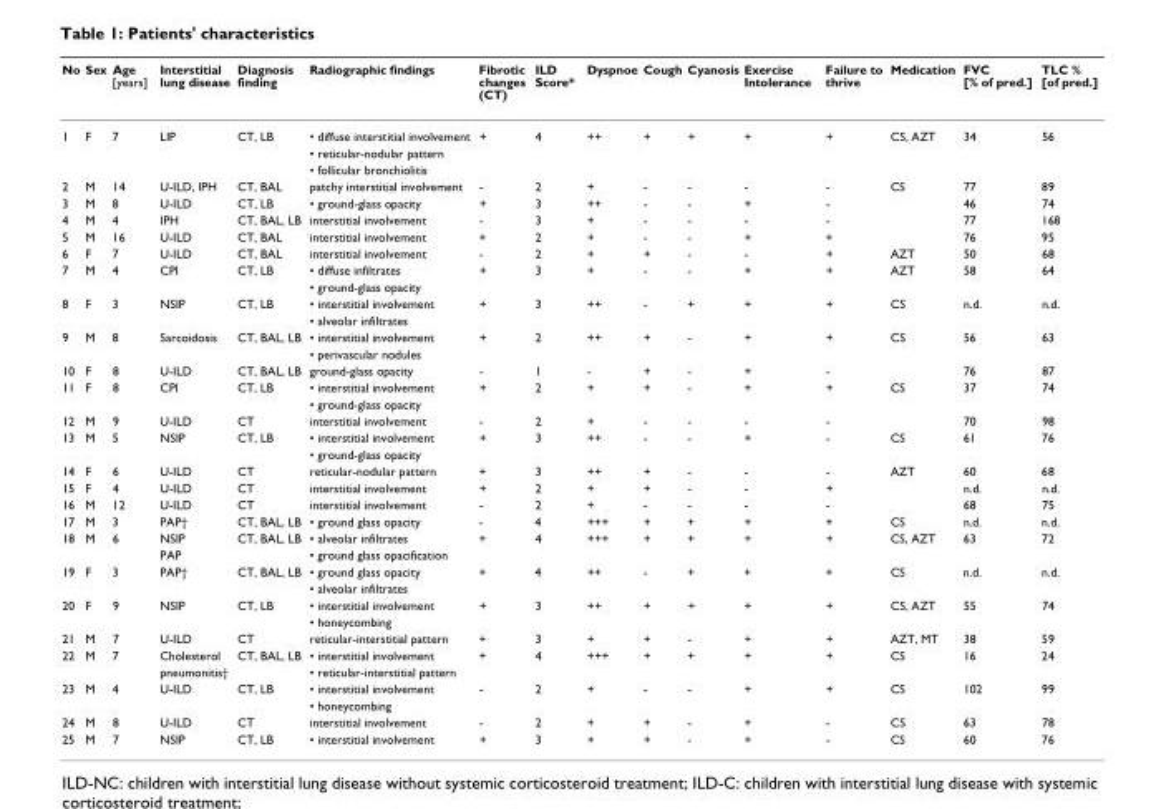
<table><thead><tr><td>No</td><td>Sex</td><td>Age [years]</td><td>Interstitial lung disease</td><td>Diagnosis finding</td><td>Radiographic findings</td><td>Fibrotic changes (CT)</td><td>ILD Score*</td><td>Dyspnoe</td><td>Cough</td><td>Cyanosis</td><td>Exercise Intolerance</td><td>Failure to thrive</td><td>Medication</td><td>FVC [% of pred.]</td><td>TLC % [of pred.]</td></tr></thead><tbody><tr><td rowspan="3">1</td><td>F</td><td>7</td><td>LIP</td><td>CT, LB</td><td>• diffuse interstitial involvement</td><td>+</td><td>4</td><td>++</td><td>+</td><td>+</td><td>+</td><td>+</td><td>CS, AZT</td><td>34</td><td>56</td></tr><tr><td></td><td></td><td></td><td></td><td>• reticular-nodular pattern</td><td></td><td></td><td></td><td></td><td></td><td></td><td></td><td></td><td></td><td></td></tr><tr><td></td><td></td><td></td><td></td><td>• follicular bronchiolitis</td><td></td><td></td><td></td><td></td><td></td><td></td><td></td><td></td><td></td><td></td></tr><tr><td>2</td><td>M</td><td>14</td><td>U-ILD, IPH</td><td>CT, BAL</td><td>patchy interstitial involvement</td><td>-</td><td>2</td><td>+</td><td>-</td><td>-</td><td>-</td><td>-</td><td>CS</td><td>77</td><td>89</td></tr><tr><td>3</td><td>M</td><td>8</td><td>U-ILD</td><td>CT, LB</td><td>• ground-glass opacity</td><td>+</td><td>3</td><td>++</td><td>-</td><td>-</td><td>+</td><td>-</td><td></td><td>46</td><td>74</td></tr><tr><td>4</td><td>M</td><td>4</td><td>IPH</td><td>CT, BAL, LB</td><td>interstitial involvement</td><td>-</td><td>3</td><td>+</td><td>-</td><td>-</td><td>-</td><td>-</td><td></td><td>77</td><td>168</td></tr><tr><td>5</td><td>M</td><td>16</td><td>U-ILD</td><td>CT, BAL</td><td>interstitial involvement</td><td>+</td><td>2</td><td>+</td><td>-</td><td>-</td><td>+</td><td>+</td><td></td><td>76</td><td>95</td></tr><tr><td>6</td><td>F</td><td>7</td><td>U-ILD</td><td>CT, BAL</td><td>interstitial involvement</td><td>-</td><td>2</td><td>+</td><td>+</td><td>-</td><td>-</td><td>+</td><td>AZT</td><td>50</td><td>68</td></tr><tr><td rowspan="2">7</td><td>M</td><td>4</td><td>CPI</td><td>CT, LB</td><td>• diffuse infiltrates</td><td>+</td><td>3</td><td>+</td><td>-</td><td>-</td><td>+</td><td>+</td><td>AZT</td><td>58</td><td>64</td></tr><tr><td></td><td></td><td></td><td></td><td>• ground-glass opacity</td><td></td><td></td><td></td><td></td><td></td><td></td><td></td><td></td><td></td><td></td></tr><tr><td rowspan="2">8</td><td>F</td><td>3</td><td>NSIP</td><td>CT, LB</td><td>• interstitial involvement</td><td>+</td><td>3</td><td>++</td><td>-</td><td>+</td><td>+</td><td>+</td><td>CS</td><td>n.d.</td><td>n.d.</td></tr><tr><td></td><td></td><td></td><td></td><td>• alveolar infiltrates</td><td></td><td></td><td></td><td></td><td></td><td></td><td></td><td></td><td></td><td></td></tr><tr><td rowspan="2">9</td><td>M</td><td>8</td><td>Sarcoidosis</td><td>CT, BAL, LB</td><td>• interstitial involvement</td><td>+</td><td>2</td><td>++</td><td>+</td><td>-</td><td>+</td><td>+</td><td>CS</td><td>56</td><td>63</td></tr><tr><td></td><td></td><td></td><td></td><td>• perivascular nodules</td><td></td><td></td><td></td><td></td><td></td><td></td><td></td><td></td><td></td><td></td></tr><tr><td>10</td><td>F</td><td>8</td><td>U-ILD</td><td>CT, BAL, LB</td><td>ground-glass opacity</td><td>-</td><td>1</td><td>-</td><td>+</td><td>-</td><td>+</td><td>-</td><td></td><td>76</td><td>87</td></tr><tr><td rowspan="2">11</td><td>F</td><td>8</td><td>CPI</td><td>CT, LB</td><td>• interstitial involvement</td><td>+</td><td>2</td><td>+</td><td>+</td><td>-</td><td>+</td><td>+</td><td>CS</td><td>37</td><td>74</td></tr><tr><td></td><td></td><td></td><td></td><td>• ground-glass opacity</td><td></td><td></td><td></td><td></td><td></td><td></td><td></td><td></td><td></td><td></td></tr><tr><td>12</td><td>M</td><td>9</td><td>U-ILD</td><td>CT</td><td>interstitial involvement</td><td>-</td><td>2</td><td>+</td><td>-</td><td>-</td><td>-</td><td>-</td><td></td><td>70</td><td>98</td></tr><tr><td rowspan="2">13</td><td>M</td><td>5</td><td>NSIP</td><td>CT, LB</td><td>• interstitial involvement</td><td>+</td><td>3</td><td>++</td><td>-</td><td>-</td><td>+</td><td>-</td><td>CS</td><td>61</td><td>76</td></tr><tr><td></td><td></td><td></td><td></td><td>• ground-glass opacity</td><td></td><td></td><td></td><td></td><td></td><td></td><td></td><td></td><td></td><td></td></tr><tr><td>14</td><td>F</td><td>6</td><td>U-ILD</td><td>CT</td><td>reticular-nodular pattern</td><td>+</td><td>3</td><td>++</td><td>+</td><td>-</td><td>-</td><td>-</td><td>AZT</td><td>60</td><td>68</td></tr><tr><td>15</td><td>F</td><td>4</td><td>U-ILD</td><td>CT</td><td>interstitial involvement</td><td>+</td><td>2</td><td>+</td><td>+</td><td>-</td><td>-</td><td>+</td><td></td><td>n.d.</td><td>n.d.</td></tr><tr><td>16</td><td>M</td><td>12</td><td>U-ILD</td><td>CT</td><td>interstitial involvement</td><td>-</td><td>2</td><td>+</td><td>-</td><td>-</td><td>-</td><td>-</td><td></td><td>68</td><td>75</td></tr><tr><td>17</td><td>M</td><td>3</td><td>PAP†</td><td>CT, BAL, LB</td><td>• ground glass opacity</td><td>-</td><td>4</td><td>+++</td><td>+</td><td>+</td><td>+</td><td>+</td><td>CS</td><td>n.d.</td><td>n.d.</td></tr><tr><td rowspan="2">18</td><td>M</td><td>6</td><td>NSIP</td><td>CT, BAL, LB</td><td>• alveolar infiltrates</td><td>+</td><td>4</td><td>+++</td><td>+</td><td>+</td><td>+</td><td>+</td><td>CS, AZT</td><td>63</td><td>72</td></tr><tr><td></td><td></td><td>PAP</td><td></td><td>• ground glass opacification</td><td></td><td></td><td></td><td></td><td></td><td></td><td></td><td></td><td></td><td></td></tr><tr><td rowspan="2">19</td><td>F</td><td>3</td><td>PAP†</td><td>CT, BAL, LB</td><td>• ground glass opacity</td><td>+</td><td>4</td><td>++</td><td>-</td><td>+</td><td>+</td><td>+</td><td>CS</td><td>n.d.</td><td>n.d.</td></tr><tr><td></td><td></td><td></td><td></td><td>• alveolar infiltrates</td><td></td><td></td><td></td><td></td><td></td><td></td><td></td><td></td><td></td><td></td></tr><tr><td rowspan="2">20</td><td>F</td><td>9</td><td>NSIP</td><td>CT, LB</td><td>• interstitial involvement</td><td>+</td><td>3</td><td>++</td><td>+</td><td>+</td><td>+</td><td>+</td><td>CS, AZT</td><td>55</td><td>74</td></tr><tr><td></td><td></td><td></td><td></td><td>• honeycombing</td><td></td><td></td><td></td><td></td><td></td><td></td><td></td><td></td><td></td><td></td></tr><tr><td>21</td><td>M</td><td>7</td><td>U-ILD</td><td>CT</td><td>reticular-interstitial pattern</td><td>+</td><td>3</td><td>+</td><td>+</td><td>-</td><td>+</td><td>+</td><td>AZT, MT</td><td>38</td><td>59</td></tr><tr><td rowspan="2">22</td><td>M</td><td>7</td><td>Cholesterol</td><td>CT, BAL, LB</td><td>• interstitial involvement</td><td>+</td><td>4</td><td>+++</td><td>+</td><td>+</td><td>+</td><td>+</td><td>CS</td><td>16</td><td>24</td></tr><tr><td></td><td></td><td>pneumonitis†</td><td></td><td>• reticular-interstitial pattern</td><td></td><td></td><td></td><td></td><td></td><td></td><td></td><td></td><td></td><td></td></tr><tr><td rowspan="2">23</td><td>M</td><td>4</td><td>U-ILD</td><td>CT, LB</td><td>• interstitial involvement</td><td>-</td><td>2</td><td>+</td><td>-</td><td>-</td><td>+</td><td>+</td><td>CS</td><td>102</td><td>99</td></tr><tr><td></td><td></td><td></td><td></td><td>• honeycombing</td><td></td><td></td><td></td><td></td><td></td><td></td><td></td><td></td><td></td><td></td></tr><tr><td>24</td><td>M</td><td>8</td><td>U-ILD</td><td>CT</td><td>interstitial involvement</td><td>-</td><td>2</td><td>+</td><td>+</td><td>-</td><td>+</td><td>-</td><td>CS</td><td>63</td><td>78</td></tr><tr><td>25</td><td>M</td><td>7</td><td>NSIP</td><td>CT, LB</td><td>• interstitial involvement</td><td>+</td><td>3</td><td>+</td><td>+</td><td>-</td><td>+</td><td>-</td><td>CS</td><td>60</td><td>76</td></tr></tbody></table>